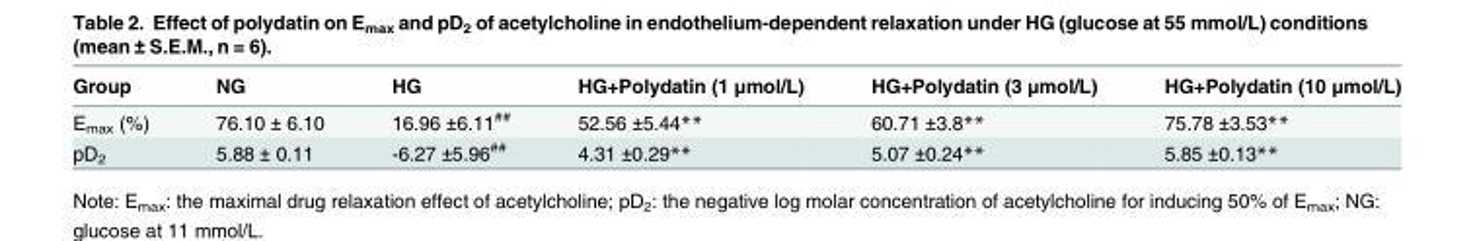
<table><thead><tr><td>Group</td><td>NG</td><td>HG</td><td>HG+Polydatin (1 μmol/L)</td><td>HG+Polydatin (3 μmol/L)</td><td>HG+Polydatin (10 μmol/L)</td></tr></thead><tbody><tr><td>E<sub>max</sub> (%)</td><td>76.10 ± 6.10</td><td>16.96 ±6.11<sup>##</sup></td><td>52.56 ±5.44**</td><td>60.71 ±3.8**</td><td>75.78 ±3.53**</td></tr><tr><td>pD<sub>2</sub></td><td>5.88 ± 0.11</td><td>-6.27 ±5.96<sup>##</sup></td><td>4.31 ±0.29**</td><td>5.07 ±0.24**</td><td>5.85 ±0.13**</td></tr></tbody></table>